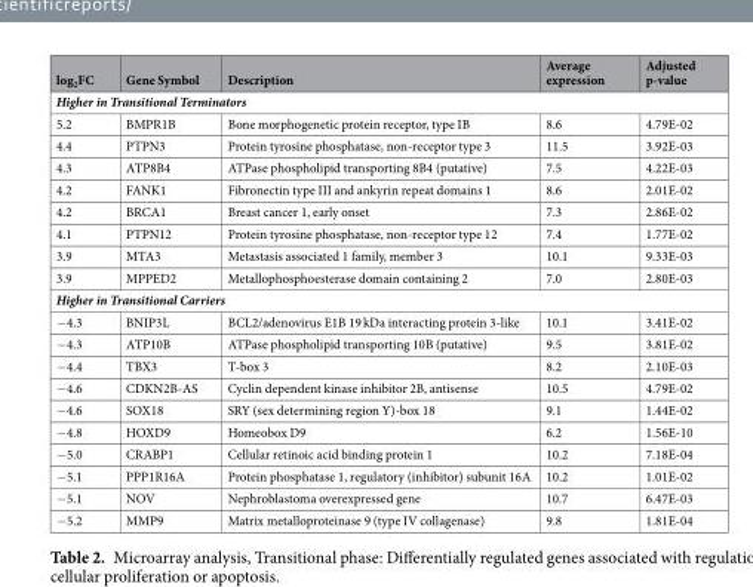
<table><thead><tr><td>log<sub>2</sub>FC</td><td>Gene Symbol</td><td>Description</td><td>Average expression</td><td>Adjusted p-value</td></tr></thead><tbody><tr><td colspan="5">Higher in Transitional Terminators</td></tr><tr><td>5.2</td><td>BMPR1B</td><td>Bone morphogenetic protein receptor, type IB</td><td>8.6</td><td>4.79E-02</td></tr><tr><td>4.4</td><td>PTPN3</td><td>Protein tyrosine phosphatase, non-receptor type 3</td><td>11.5</td><td>3.92E-03</td></tr><tr><td>4.3</td><td>ATP8B4</td><td>ATPase phospholipid transporting 8B4 (putative)</td><td>7.5</td><td>4.22E-03</td></tr><tr><td>4.2</td><td>FANK1</td><td>Fibronectin type III and ankyrin repeat domains 1</td><td>8.6</td><td>2.01E-02</td></tr><tr><td>4.2</td><td>BRCA1</td><td>Breast cancer 1, early onset</td><td>7.3</td><td>2.86E-02</td></tr><tr><td>4.1</td><td>PTPN12</td><td>Protein tyrosine phosphatase, non-receptor type 12</td><td>7.4</td><td>1.77E-02</td></tr><tr><td>3.9</td><td>MTA3</td><td>Metastasis associated 1 family, member 3</td><td>10.1</td><td>9.33E-03</td></tr><tr><td>3.9</td><td>MPPED2</td><td>Metallophosphoesterase domain containing 2</td><td>7.0</td><td>2.80E-03</td></tr><tr><td colspan="5">Higher in Transitional Carriers</td></tr><tr><td>−4.3</td><td>BNIP3L</td><td>BCL2/adenovirus E1B 19 kDa interacting protein 3-like</td><td>10.1</td><td>3.41E-02</td></tr><tr><td>−4.3</td><td>ATP10B</td><td>ATPase phospholipid transporting 10B (putative)</td><td>9.5</td><td>3.81E-02</td></tr><tr><td>−4.4</td><td>TBX3</td><td>T-box 3</td><td>8.2</td><td>2.10E-03</td></tr><tr><td>−4.6</td><td>CDKN2B-AS</td><td>Cyclin dependent kinase inhibitor 2B, antisense</td><td>10.5</td><td>4.79E-02</td></tr><tr><td>−4.6</td><td>SOX18</td><td>SRY (sex determining region Y)-box 18</td><td>9.1</td><td>1.44E-02</td></tr><tr><td>−4.8</td><td>HOXD9</td><td>Homeobox D9</td><td>6.2</td><td>1.56E-10</td></tr><tr><td>−5.0</td><td>CRABP1</td><td>Cellular retinoic acid binding protein 1</td><td>10.2</td><td>7.18E-04</td></tr><tr><td>−5.1</td><td>PPP1R16A</td><td>Protein phosphatase 1, regulatory (inhibitor) subunit 16A</td><td>10.2</td><td>1.01E-02</td></tr><tr><td>−5.1</td><td>NOV</td><td>Nephroblastoma overexpressed gene</td><td>10.7</td><td>6.47E-03</td></tr><tr><td>−5.2</td><td>MMP9</td><td>Matrix metalloproteinase 9 (type IV collagenase)</td><td>9.8</td><td>1.81E-04</td></tr></tbody></table>